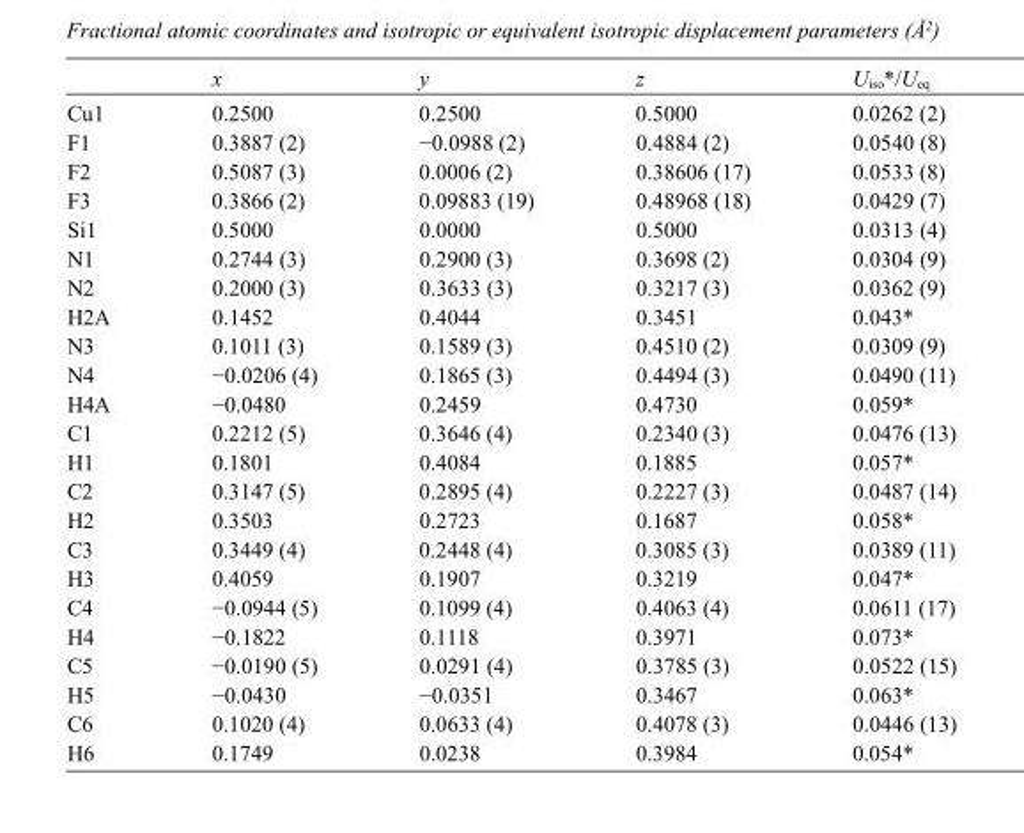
<table><thead><tr><td></td><td>x</td><td>y</td><td>z</td><td>U<sub>iso</sub>*/U<sub>eq</sub></td></tr></thead><tbody><tr><td>Cu1</td><td>0.2500</td><td>0.2500</td><td>0.5000</td><td>0.0262 (2)</td></tr><tr><td>F1</td><td>0.3887 (2)</td><td>−0.0988 (2)</td><td>0.4884 (2)</td><td>0.0540 (8)</td></tr><tr><td>F2</td><td>0.5087 (3)</td><td>0.0006 (2)</td><td>0.38606 (17)</td><td>0.0533 (8)</td></tr><tr><td>F3</td><td>0.3866 (2)</td><td>0.09883 (19)</td><td>0.48968 (18)</td><td>0.0429 (7)</td></tr><tr><td>Si1</td><td>0.5000</td><td>0.0000</td><td>0.5000</td><td>0.0313 (4)</td></tr><tr><td>N1</td><td>0.2744 (3)</td><td>0.2900 (3)</td><td>0.3698 (2)</td><td>0.0304 (9)</td></tr><tr><td>N2</td><td>0.2000 (3)</td><td>0.3633 (3)</td><td>0.3217 (3)</td><td>0.0362 (9)</td></tr><tr><td>H2A</td><td>0.1452</td><td>0.4044</td><td>0.3451</td><td>0.043*</td></tr><tr><td>N3</td><td>0.1011 (3)</td><td>0.1589 (3)</td><td>0.4510 (2)</td><td>0.0309 (9)</td></tr><tr><td>N4</td><td>−0.0206 (4)</td><td>0.1865 (3)</td><td>0.4494 (3)</td><td>0.0490 (11)</td></tr><tr><td>H4A</td><td>−0.0480</td><td>0.2459</td><td>0.4730</td><td>0.059*</td></tr><tr><td>C1</td><td>0.2212 (5)</td><td>0.3646 (4)</td><td>0.2340 (3)</td><td>0.0476 (13)</td></tr><tr><td>H1</td><td>0.1801</td><td>0.4084</td><td>0.1885</td><td>0.057*</td></tr><tr><td>C2</td><td>0.3147 (5)</td><td>0.2895 (4)</td><td>0.2227 (3)</td><td>0.0487 (14)</td></tr><tr><td>H2</td><td>0.3503</td><td>0.2723</td><td>0.1687</td><td>0.058*</td></tr><tr><td>C3</td><td>0.3449 (4)</td><td>0.2448 (4)</td><td>0.3085 (3)</td><td>0.0389 (11)</td></tr><tr><td>H3</td><td>0.4059</td><td>0.1907</td><td>0.3219</td><td>0.047*</td></tr><tr><td>C4</td><td>−0.0944 (5)</td><td>0.1099 (4)</td><td>0.4063 (4)</td><td>0.0611 (17)</td></tr><tr><td>H4</td><td>−0.1822</td><td>0.1118</td><td>0.3971</td><td>0.073*</td></tr><tr><td>C5</td><td>−0.0190 (5)</td><td>0.0291 (4)</td><td>0.3785 (3)</td><td>0.0522 (15)</td></tr><tr><td>H5</td><td>−0.0430</td><td>−0.0351</td><td>0.3467</td><td>0.063*</td></tr><tr><td>C6</td><td>0.1020 (4)</td><td>0.0633 (4)</td><td>0.4078 (3)</td><td>0.0446 (13)</td></tr><tr><td>H6</td><td>0.1749</td><td>0.0238</td><td>0.3984</td><td>0.054*</td></tr></tbody></table>